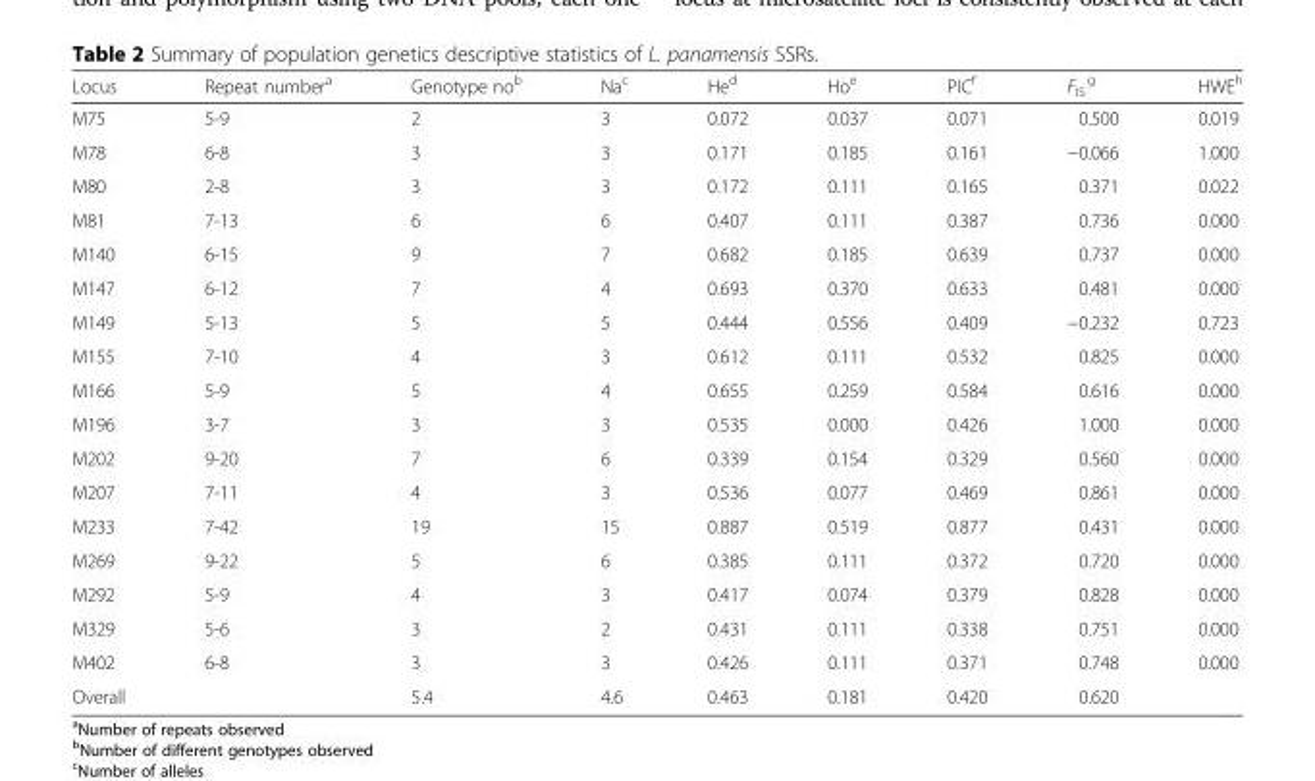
<table><thead><tr><td>Locus</td><td>Repeat number<sup>a</sup></td><td>Genotype no<sup>b</sup></td><td>Na<sup>c</sup></td><td>He<sup>d</sup></td><td>Ho<sup>e</sup></td><td>PIC<sup>f</sup></td><td>F<sub>IS</sub> <sup>g</sup></td><td>HWE<sup>h</sup></td></tr></thead><tbody><tr><td>M75</td><td>5-9</td><td>2</td><td>3</td><td>0.072</td><td>0.037</td><td>0.071</td><td>0.500</td><td>0.019</td></tr><tr><td>M78</td><td>6-8</td><td>3</td><td>3</td><td>0.171</td><td>0.185</td><td>0.161</td><td>−0.066</td><td>1.000</td></tr><tr><td>M80</td><td>2-8</td><td>3</td><td>3</td><td>0.172</td><td>0.111</td><td>0.165</td><td>0.371</td><td>0.022</td></tr><tr><td>M81</td><td>7-13</td><td>6</td><td>6</td><td>0.407</td><td>0.111</td><td>0.387</td><td>0.736</td><td>0.000</td></tr><tr><td>M140</td><td>6-15</td><td>9</td><td>7</td><td>0.682</td><td>0.185</td><td>0.639</td><td>0.737</td><td>0.000</td></tr><tr><td>M147</td><td>6-12</td><td>7</td><td>4</td><td>0.693</td><td>0.370</td><td>0.633</td><td>0.481</td><td>0.000</td></tr><tr><td>M149</td><td>5-13</td><td>5</td><td>5</td><td>0.444</td><td>0.556</td><td>0.409</td><td>−0.232</td><td>0.723</td></tr><tr><td>M155</td><td>7-10</td><td>4</td><td>3</td><td>0.612</td><td>0.111</td><td>0.532</td><td>0.825</td><td>0.000</td></tr><tr><td>M166</td><td>5-9</td><td>5</td><td>4</td><td>0.655</td><td>0.259</td><td>0.584</td><td>0.616</td><td>0.000</td></tr><tr><td>M196</td><td>3-7</td><td>3</td><td>3</td><td>0.535</td><td>0.000</td><td>0.426</td><td>1.000</td><td>0.000</td></tr><tr><td>M202</td><td>9-20</td><td>7</td><td>6</td><td>0.339</td><td>0.154</td><td>0.329</td><td>0.560</td><td>0.000</td></tr><tr><td>M207</td><td>7-11</td><td>4</td><td>3</td><td>0.536</td><td>0.077</td><td>0.469</td><td>0.861</td><td>0.000</td></tr><tr><td>M233</td><td>7-42</td><td>19</td><td>15</td><td>0.887</td><td>0.519</td><td>0.877</td><td>0.431</td><td>0.000</td></tr><tr><td>M269</td><td>9-22</td><td>5</td><td>6</td><td>0.385</td><td>0.111</td><td>0.372</td><td>0.720</td><td>0.000</td></tr><tr><td>M292</td><td>5-9</td><td>4</td><td>3</td><td>0.417</td><td>0.074</td><td>0.379</td><td>0.828</td><td>0.000</td></tr><tr><td>M329</td><td>5-6</td><td>3</td><td>2</td><td>0.431</td><td>0.111</td><td>0.338</td><td>0.751</td><td>0.000</td></tr><tr><td>M402</td><td>6-8</td><td>3</td><td>3</td><td>0.426</td><td>0.111</td><td>0.371</td><td>0.748</td><td>0.000</td></tr><tr><td>Overall</td><td></td><td>5.4</td><td>4.6</td><td>0.463</td><td>0.181</td><td>0.420</td><td>0.620</td><td></td></tr></tbody></table>